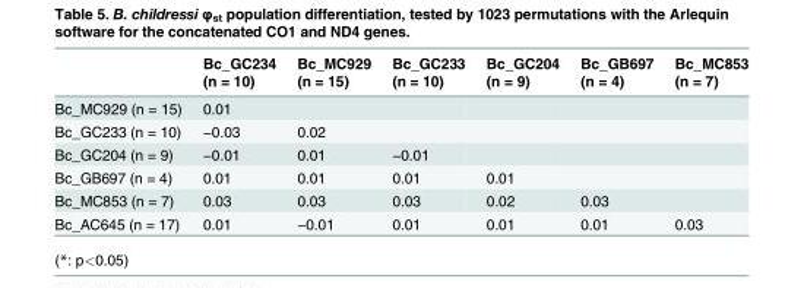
<table><thead><tr><td rowspan="2"></td><td rowspan="2">Bc_GC234 (n = 10)</td><td rowspan="2">Bc_MC929 (n = 15)</td><td rowspan="2">Bc_GC233 (n = 10)</td><td rowspan="2">Bc_GC204 (n = 9)</td><td rowspan="2">Bc_GB697 (n = 4)</td><td rowspan="2">Bc_MC853 (n = 7)</td></tr><tr></tr></thead><tbody><tr><td>Bc_MC929 (n = 15)</td><td>0.01</td><td></td><td></td><td></td><td></td><td></td></tr><tr><td>Bc_GC233 (n = 10)</td><td>−0.03</td><td>0.02</td><td></td><td></td><td></td><td></td></tr><tr><td>Bc_GC204 (n = 9)</td><td>−0.01</td><td>0.01</td><td>−0.01</td><td></td><td></td><td></td></tr><tr><td>Bc_GB697 (n = 4)</td><td>0.01</td><td>0.01</td><td>0.01</td><td>0.01</td><td></td><td></td></tr><tr><td>Bc_MC853 (n = 7)</td><td>0.03</td><td>0.03</td><td>0.03</td><td>0.02</td><td>0.03</td><td></td></tr><tr><td>Bc_AC645 (n = 17)</td><td>0.01</td><td>−0.01</td><td>0.01</td><td>0.01</td><td>0.01</td><td>0.03</td></tr></tbody></table>